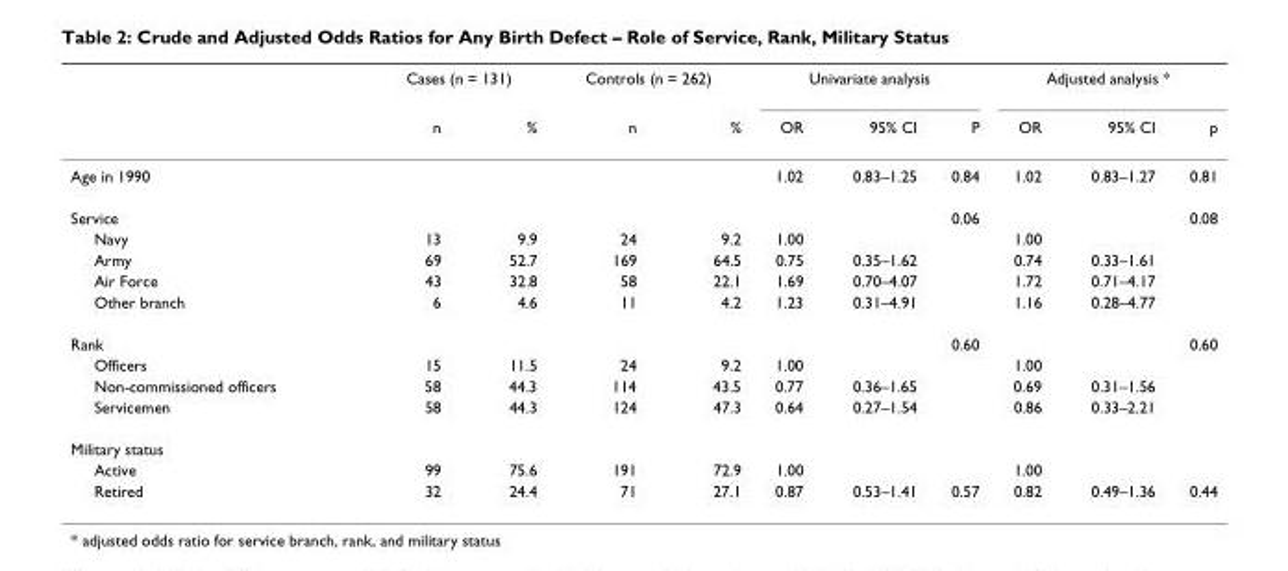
<table><thead><tr><td rowspan="2"></td><td colspan="2">Cases (n = 131)</td><td colspan="2">Controls (n = 262)</td><td colspan="3">Univariate analysis</td><td colspan="3">Adjusted analysis *</td></tr><tr><td>n</td><td>%</td><td>n</td><td>%</td><td>OR</td><td>95% CI</td><td>P</td><td>OR</td><td>95% CI</td><td>p</td></tr></thead><tbody><tr><td>Age in 1990</td><td></td><td></td><td></td><td></td><td>1.02</td><td>0.83–1.25</td><td>0.84</td><td>1.02</td><td>0.83–1.27</td><td>0.81</td></tr><tr><td>Service</td><td></td><td></td><td></td><td></td><td></td><td></td><td>0.06</td><td></td><td></td><td>0.08</td></tr><tr><td>Navy</td><td>13</td><td>9.9</td><td>24</td><td>9.2</td><td>1.00</td><td></td><td></td><td>1.00</td><td></td><td></td></tr><tr><td>Army</td><td>69</td><td>52.7</td><td>169</td><td>64.5</td><td>0.75</td><td>0.35–1.62</td><td></td><td>0.74</td><td>0.33–1.61</td><td></td></tr><tr><td>Air Force</td><td>43</td><td>32.8</td><td>58</td><td>22.1</td><td>1.69</td><td>0.70–4.07</td><td></td><td>1.72</td><td>0.71–4.17</td><td></td></tr><tr><td>Other branch</td><td>6</td><td>4.6</td><td>11</td><td>4.2</td><td>1.23</td><td>0.31–4.91</td><td></td><td>1.16</td><td>0.28–4.77</td><td></td></tr><tr><td>Rank</td><td></td><td></td><td></td><td></td><td></td><td></td><td>0.60</td><td></td><td></td><td>0.60</td></tr><tr><td>Officers</td><td>15</td><td>11.5</td><td>24</td><td>9.2</td><td>1.00</td><td></td><td></td><td>1.00</td><td></td><td></td></tr><tr><td>Non-commissioned officers</td><td>58</td><td>44.3</td><td>114</td><td>43.5</td><td>0.77</td><td>0.36–1.65</td><td></td><td>0.69</td><td>0.31–1.56</td><td></td></tr><tr><td>Servicemen</td><td>58</td><td>44.3</td><td>124</td><td>47.3</td><td>0.64</td><td>0.27–1.54</td><td></td><td>0.86</td><td>0.33–2.21</td><td></td></tr><tr><td colspan="11">Military status</td></tr><tr><td>Active</td><td>99</td><td>75.6</td><td>191</td><td>72.9</td><td>1.00</td><td></td><td></td><td>1.00</td><td></td><td></td></tr><tr><td>Retired</td><td>32</td><td>24.4</td><td>71</td><td>27.1</td><td>0.87</td><td>0.53–1.41</td><td>0.57</td><td>0.82</td><td>0.49–1.36</td><td>0.44</td></tr></tbody></table>